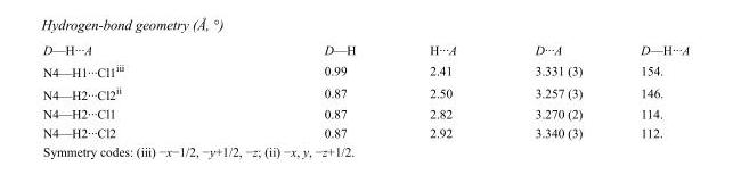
<table><tbody><tr><td>D—H···A</td><td>D—H</td><td>H···A</td><td>D···A</td><td>D—H···A</td></tr><tr><td>N4—H1···Cl1<sup>iii</sup></td><td>0.99</td><td>2.41</td><td>3.331 (3)</td><td>154.</td></tr><tr><td>N4—H2···Cl2<sup>ii</sup></td><td>0.87</td><td>2.50</td><td>3.257 (3)</td><td>146.</td></tr><tr><td>N4—H2···Cl1</td><td>0.87</td><td>2.82</td><td>3.270 (2)</td><td>114.</td></tr><tr><td>N4—H2···Cl2</td><td>0.87</td><td>2.92</td><td>3.340 (3)</td><td>112.</td></tr></tbody></table>